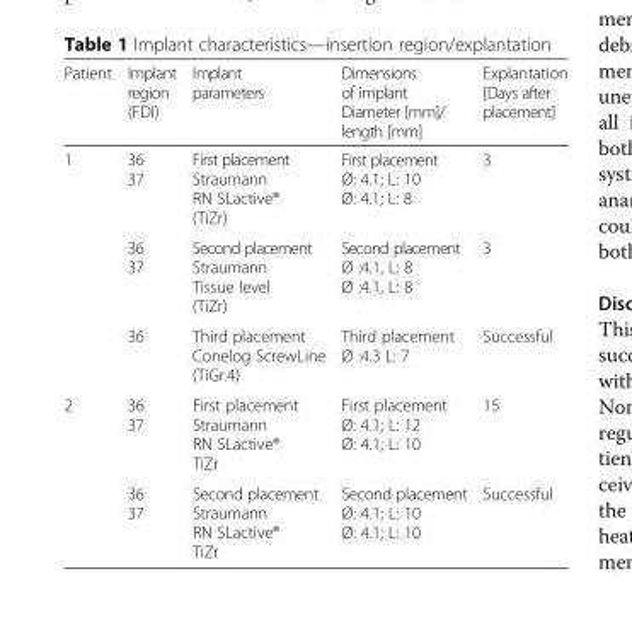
<table><thead><tr><td>Patient</td><td>Implant region (FDI)</td><td>Implant parameters</td><td>Dimensions of implant Diameter [mm]/ length [mm]</td><td>Explantation [Days after placement]</td></tr></thead><tbody><tr><td rowspan="3">1</td><td>36 37</td><td>First placement Straumann RN SLactive® (TiZr)</td><td>First placement Ø: 4.1; L: 10 Ø: 4.1; L: 8</td><td>3</td></tr><tr><td>36 37</td><td>Second placement Straumann Tissue level (TiZr)</td><td>Second placement Ø :4.1, L: 8 Ø :4.1, L: 8</td><td>3</td></tr><tr><td>36</td><td>Third placement Conelog ScrewLine (TiGr.4)</td><td>Third placement Ø :4.3 L: 7</td><td>Successful</td></tr><tr><td rowspan="2">2</td><td>36 37</td><td>First placement Straumann RN SLactive® TiZr</td><td>First placement Ø: 4.1; L: 12 Ø: 4.1; L: 10</td><td>15</td></tr><tr><td>36 37</td><td>Second placement Straumann RN SLactive® TiZr</td><td>Second placement Ø: 4.1; L: 10 Ø: 4.1; L: 10</td><td>Successful</td></tr></tbody></table>